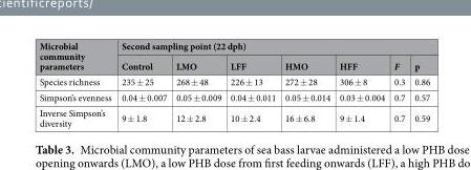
<table><thead><tr><td rowspan="2">Microbial community parameters</td><td colspan="7">Second sampling point (22 dph)</td></tr><tr><td>Control</td><td>LMO</td><td>LFF</td><td>HMO</td><td>HFF</td><td>F</td><td>p</td></tr></thead><tbody><tr><td>Species richness</td><td>235 ± 25</td><td>268 ± 48</td><td>226 ± 13</td><td>272 ± 28</td><td>306 ± 8</td><td>0.3</td><td>0.86</td></tr><tr><td>Simpson’s evenness</td><td>0.04 ± 0.007</td><td>0.05 ± 0.009</td><td>0.04 ± 0.011</td><td>0.05 ± 0.014</td><td>0.03 ± 0.004</td><td>0.7</td><td>0.57</td></tr><tr><td>Inverse Simpson’s diversity</td><td>9 ± 1.8</td><td>12 ± 2.8</td><td>10 ± 2.4</td><td>16 ± 6.8</td><td>9 ± 1.4</td><td>0.7</td><td>0.59</td></tr></tbody></table>